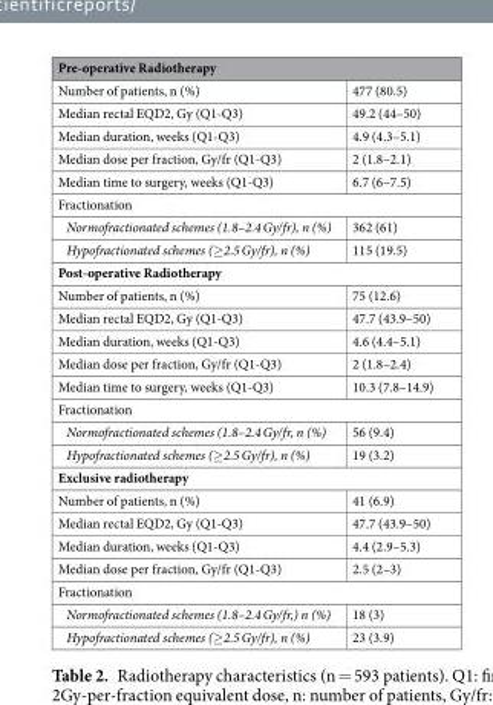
<table><thead><tr><td colspan="2">Pre-operative Radiotherapy</td></tr><tr><td>Number of patients, n (%)</td><td>477 (80.5)</td></tr></thead><tbody><tr><td>Median rectal EQD2, Gy (Q1-Q3)</td><td>49.2 (44–50)</td></tr><tr><td>Median duration, weeks (Q1-Q3)</td><td>4.9 (4.3–5.1)</td></tr><tr><td>Median dose per fraction, Gy/fr (Q1-Q3)</td><td>2 (1.8–2.1)</td></tr><tr><td>Median time to surgery, weeks (Q1-Q3)</td><td>6.7 (6–7.5)</td></tr><tr><td colspan="2">Fractionation</td></tr><tr><td>Normofractionated schemes (1.8–2.4 Gy/fr), n (%)</td><td>362 (61)</td></tr><tr><td>Hypofractionated schemes (≥2.5 Gy/fr), n (%)</td><td>115 (19.5)</td></tr><tr><td colspan="2">Post-operative Radiotherapy</td></tr><tr><td>Number of patients, n (%)</td><td>75 (12.6)</td></tr><tr><td>Median rectal EQD2, Gy (Q1-Q3)</td><td>47.7 (43.9–50)</td></tr><tr><td>Median duration, weeks (Q1-Q3)</td><td>4.6 (4.4–5.1)</td></tr><tr><td>Median dose per fraction, Gy/fr (Q1-Q3)</td><td>2 (1.8–2.4)</td></tr><tr><td>Median time to surgery, weeks (Q1-Q3)</td><td>10.3 (7.8–14.9)</td></tr><tr><td colspan="2">Fractionation</td></tr><tr><td>Normofractionated schemes (1.8–2.4 Gy/fr, n (%)</td><td>56 (9.4)</td></tr><tr><td>Hypofractionated schemes (≥2.5 Gy/fr), n (%)</td><td>19 (3.2)</td></tr><tr><td colspan="2">Exclusive radiotherapy</td></tr><tr><td>Number of patients, n (%)</td><td>41 (6.9)</td></tr><tr><td>Median rectal EQD2, Gy (Q1-Q3)</td><td>47.7 (43.9–50)</td></tr><tr><td>Median duration, weeks (Q1-Q3)</td><td>4.4 (2.9–5.3)</td></tr><tr><td>Median dose per fraction, Gy/fr (Q1-Q3)</td><td>2.5 (2–3)</td></tr><tr><td colspan="2">Fractionation</td></tr><tr><td>Normofractionated schemes (1.8–2.4 Gy/fr,) n (%)</td><td>18 (3)</td></tr><tr><td>Hypofractionated schemes (≥2.5 Gy/fr), n (%)</td><td>23 (3.9)</td></tr></tbody></table>